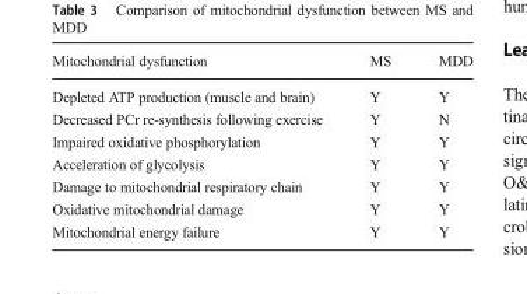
<table><thead><tr><td>Mitochondrial dysfunction</td><td>MS</td><td>MDD</td></tr></thead><tbody><tr><td>Depleted ATP production (muscle and brain)</td><td>Y</td><td>Y</td></tr><tr><td>Decreased PCr re-synthesis following exercise</td><td>Y</td><td>N</td></tr><tr><td>Impaired oxidative phosphorylation</td><td>Y</td><td>Y</td></tr><tr><td>Acceleration of glycolysis</td><td>Y</td><td>Y</td></tr><tr><td>Damage to mitochondrial respiratory chain</td><td>Y</td><td>Y</td></tr><tr><td>Oxidative mitochondrial damage</td><td>Y</td><td>Y</td></tr><tr><td>Mitochondrial energy failure</td><td>Y</td><td>Y</td></tr></tbody></table>